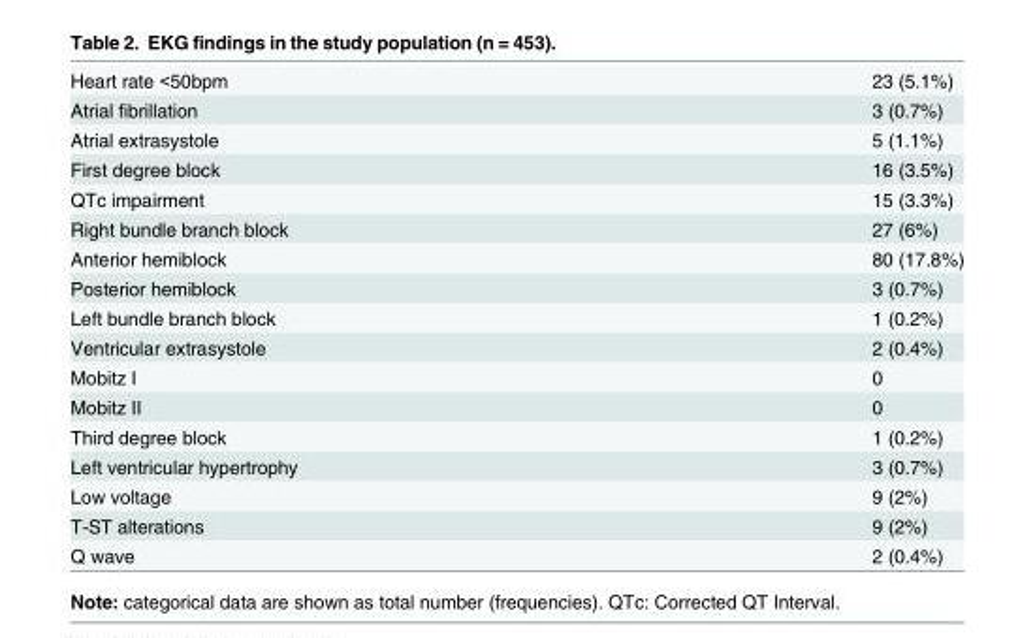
<table><tbody><tr><td>Heart rate &lt;50bpm</td><td>23 (5.1%)</td></tr><tr><td>Atrial fibrillation</td><td>3 (0.7%)</td></tr><tr><td>Atrial extrasystole</td><td>5 (1.1%)</td></tr><tr><td>First degree block</td><td>16 (3.5%)</td></tr><tr><td>QTc impairment</td><td>15 (3.3%)</td></tr><tr><td>Right bundle branch block</td><td>27 (6%)</td></tr><tr><td>Anterior hemiblock</td><td>80 (17.8%)</td></tr><tr><td>Posterior hemiblock</td><td>3 (0.7%)</td></tr><tr><td>Left bundle branch block</td><td>1 (0.2%)</td></tr><tr><td>Ventricular extrasystole</td><td>2 (0.4%)</td></tr><tr><td>Mobitz I</td><td>0</td></tr><tr><td>Mobitz II</td><td>0</td></tr><tr><td>Third degree block</td><td>1 (0.2%)</td></tr><tr><td>Left ventricular hypertrophy</td><td>3 (0.7%)</td></tr><tr><td>Low voltage</td><td>9 (2%)</td></tr><tr><td>T-ST alterations</td><td>9 (2%)</td></tr><tr><td>Q wave</td><td>2 (0.4%)</td></tr></tbody></table>